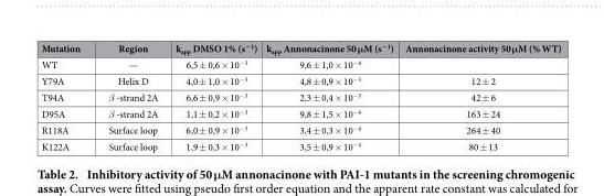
<table><thead><tr><td>Mutation</td><td>Region</td><td>k<sub>app</sub> DMSO 1% (s<sup>−1</sup>)</td><td>k<sub>app</sub> Annonacinone 50 μM (s<sup>−1</sup>)</td><td>Annonacinone activity 50 μM (% WT)</td></tr></thead><tbody><tr><td>WT</td><td>—</td><td>6,5 ± 0,6 × 10<sup>−3</sup></td><td>9,6 ± 1,0 × 10<sup>−4</sup></td><td></td></tr><tr><td>Y79A</td><td>Helix D</td><td>4,0 ± 1,0 × 10<sup>−3</sup></td><td>4,8 ± 0,9 × 10<sup>−3</sup></td><td>12 ± 2</td></tr><tr><td>T94A</td><td>β -strand 2A</td><td>6,6 ± 0,9 × 10<sup>−3</sup></td><td>2,3 ± 0,4 × 10<sup>−3</sup></td><td>42 ± 6</td></tr><tr><td>D95A</td><td>β -strand 2A</td><td>1,1 ± 0,2 × 10<sup>−3</sup></td><td>9,8 ± 1,5 × 10<sup>−4</sup></td><td>163 ± 24</td></tr><tr><td>R118A</td><td>Surface loop</td><td>6,0 ± 0,9 × 10<sup>−3</sup></td><td>3,4 ± 0,3 × 10<sup>−4</sup></td><td>264 ± 40</td></tr><tr><td>K122A</td><td>Surface loop</td><td>1,9 ± 0,3 × 10<sup>−3</sup></td><td>3,5 ± 0,9 × 10<sup>−4</sup></td><td>80 ± 13</td></tr></tbody></table>